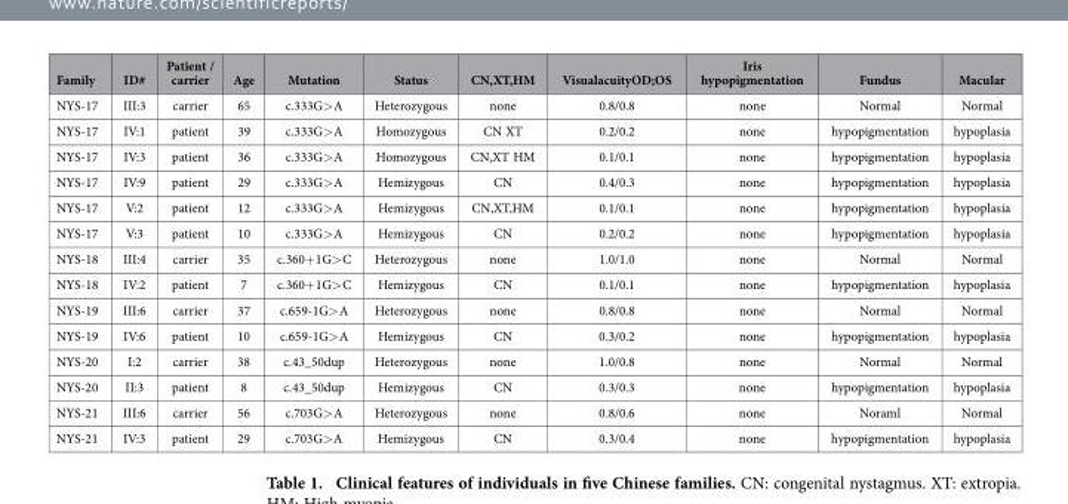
<table><thead><tr><td>Family</td><td>ID#</td><td>Patient / carrier</td><td>Age</td><td>Mutation</td><td>Status</td><td>CN,XT,HM</td><td>VisualacuityOD;OS</td><td>Iris hypopigmentation</td><td>Fundus</td><td>Macular</td></tr></thead><tbody><tr><td>NYS-17</td><td>III:3</td><td>carrier</td><td>65</td><td>c.333G&gt; A</td><td>Heterozygous</td><td>none</td><td>0.8/0.8</td><td>none</td><td>Normal</td><td>Normal</td></tr><tr><td>NYS-17</td><td>IV:1</td><td>patient</td><td>39</td><td>c.333G&gt; A</td><td>Homozygous</td><td>CN XT</td><td>0.2/0.2</td><td>none</td><td>hypopigmentation</td><td>hypoplasia</td></tr><tr><td>NYS-17</td><td>IV:3</td><td>patient</td><td>36</td><td>c.333G&gt; A</td><td>Homozygous</td><td>CN,XT HM</td><td>0.1/0.1</td><td>none</td><td>hypopigmentation</td><td>hypoplasia</td></tr><tr><td>NYS-17</td><td>IV:9</td><td>patient</td><td>29</td><td>c.333G&gt; A</td><td>Hemizygous</td><td>CN</td><td>0.4/0.3</td><td>none</td><td>hypopigmentation</td><td>hypoplasia</td></tr><tr><td>NYS-17</td><td>V:2</td><td>patient</td><td>12</td><td>c.333G&gt; A</td><td>Hemizygous</td><td>CN,XT,HM</td><td>0.1/0.1</td><td>none</td><td>hypopigmentation</td><td>hypoplasia</td></tr><tr><td>NYS-17</td><td>V:3</td><td>patient</td><td>10</td><td>c.333G&gt; A</td><td>Hemizygous</td><td>CN</td><td>0.2/0.2</td><td>none</td><td>hypopigmentation</td><td>hypoplasia</td></tr><tr><td>NYS-18</td><td>III:4</td><td>carrier</td><td>35</td><td>c.360+ 1G&gt; C</td><td>Heterozygous</td><td>none</td><td>1.0/1.0</td><td>none</td><td>Normal</td><td>Normal</td></tr><tr><td>NYS-18</td><td>IV:2</td><td>patient</td><td>7</td><td>c.360+ 1G&gt; C</td><td>Hemizygous</td><td>CN</td><td>0.1/0.1</td><td>none</td><td>hypopigmentation</td><td>hypoplasia</td></tr><tr><td>NYS-19</td><td>III:6</td><td>carrier</td><td>37</td><td>c.659-1G&gt; A</td><td>Heterozygous</td><td>none</td><td>0.8/0.8</td><td>none</td><td>Normal</td><td>Normal</td></tr><tr><td>NYS-19</td><td>IV:6</td><td>patient</td><td>10</td><td>c.659-1G&gt; A</td><td>Hemizygous</td><td>CN</td><td>0.3/0.2</td><td>none</td><td>hypopigmentation</td><td>hypoplasia</td></tr><tr><td>NYS-20</td><td>I:2</td><td>carrier</td><td>38</td><td>c.43_50dup</td><td>Heterozygous</td><td>none</td><td>1.0/0.8</td><td>none</td><td>Normal</td><td>Normal</td></tr><tr><td>NYS-20</td><td>II:3</td><td>patient</td><td>8</td><td>c.43_50dup</td><td>Hemizygous</td><td>CN</td><td>0.3/0.3</td><td>none</td><td>hypopigmentation</td><td>hypoplasia</td></tr><tr><td>NYS-21</td><td>III:6</td><td>carrier</td><td>56</td><td>c.703G&gt; A</td><td>Heterozygous</td><td>none</td><td>0.8/0.6</td><td>none</td><td>Noraml</td><td>Normal</td></tr><tr><td>NYS-21</td><td>IV:3</td><td>patient</td><td>29</td><td>c.703G&gt; A</td><td>Hemizygous</td><td>CN</td><td>0.3/0.4</td><td>none</td><td>hypopigmentation</td><td>hypoplasia</td></tr></tbody></table>